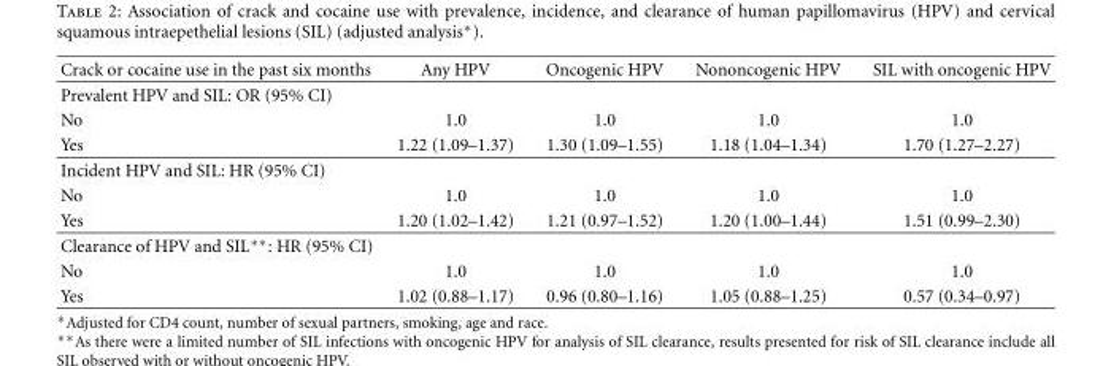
<table><thead><tr><td>Crack or cocaine use in the past six months</td><td>Any HPV</td><td>Oncogenic HPV</td><td>Nononcogenic HPV</td><td>SIL with oncogenic HPV</td></tr></thead><tbody><tr><td colspan="5">Prevalent HPV and SIL: OR (95% CI)</td></tr><tr><td>No</td><td>1.0</td><td>1.0</td><td>1.0</td><td>1.0</td></tr><tr><td>Yes</td><td>1.22 (1.09–1.37)</td><td>1.30 (1.09–1.55)</td><td>1.18 (1.04–1.34)</td><td>1.70 (1.27–2.27)</td></tr><tr><td colspan="5">Incident HPV and SIL: HR (95% CI)</td></tr><tr><td>No</td><td>1.0</td><td>1.0</td><td>1.0</td><td>1.0</td></tr><tr><td>Yes</td><td>1.20 (1.02–1.42)</td><td>1.21 (0.97–1.52)</td><td>1.20 (1.00–1.44)</td><td>1.51 (0.99–2.30)</td></tr><tr><td colspan="5">Clearance of HPV and SIL∗∗: HR (95% CI)</td></tr><tr><td>No</td><td>1.0</td><td>1.0</td><td>1.0</td><td>1.0</td></tr><tr><td>Yes</td><td>1.02 (0.88–1.17)</td><td>0.96 (0.80–1.16)</td><td>1.05 (0.88–1.25)</td><td>0.57 (0.34–0.97)</td></tr></tbody></table>